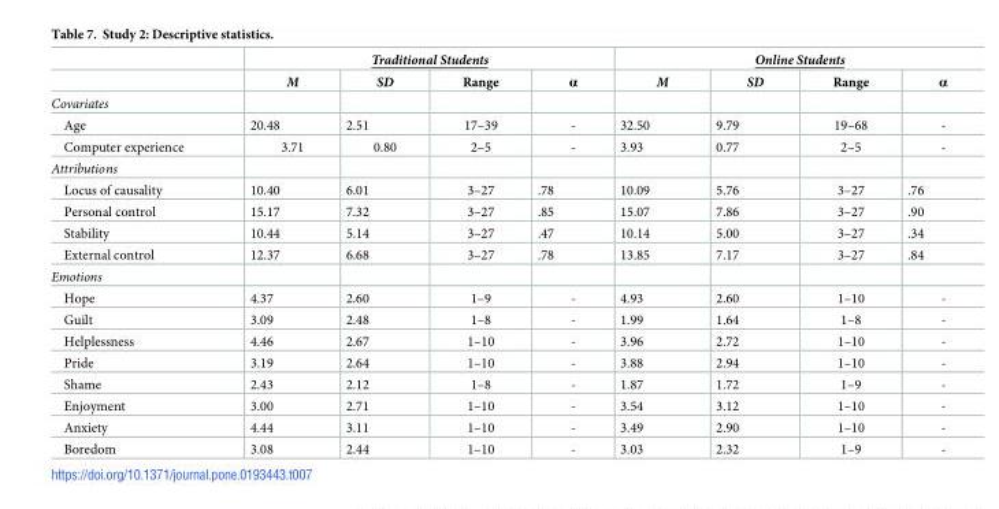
<table><thead><tr><td rowspan="2"></td><td colspan="4">Traditional Students</td><td colspan="4">Online Students</td></tr><tr><td>M</td><td>SD</td><td>Range</td><td>α</td><td>M</td><td>SD</td><td>Range</td><td>α</td></tr></thead><tbody><tr><td colspan="9">Covariates</td></tr><tr><td>Age</td><td>20.48</td><td>2.51</td><td>17–39</td><td>-</td><td>32.50</td><td>9.79</td><td>19–68</td><td>-</td></tr><tr><td>Computer experience</td><td>3.71</td><td>0.80</td><td>2–5</td><td>-</td><td>3.93</td><td>0.77</td><td>2–5</td><td>-</td></tr><tr><td colspan="9">Attributions</td></tr><tr><td>Locus of causality</td><td>10.40</td><td>6.01</td><td>3–27</td><td>.78</td><td>10.09</td><td>5.76</td><td>3–27</td><td>.76</td></tr><tr><td>Personal control</td><td>15.17</td><td>7.32</td><td>3–27</td><td>.85</td><td>15.07</td><td>7.86</td><td>3–27</td><td>.90</td></tr><tr><td>Stability</td><td>10.44</td><td>5.14</td><td>3–27</td><td>.47</td><td>10.14</td><td>5.00</td><td>3–27</td><td>.34</td></tr><tr><td>External control</td><td>12.37</td><td>6.68</td><td>3–27</td><td>.78</td><td>13.85</td><td>7.17</td><td>3–27</td><td>.84</td></tr><tr><td colspan="9">Emotions</td></tr><tr><td>Hope</td><td>4.37</td><td>2.60</td><td>1–9</td><td>-</td><td>4.93</td><td>2.60</td><td>1–10</td><td>-</td></tr><tr><td>Guilt</td><td>3.09</td><td>2.48</td><td>1–8</td><td>-</td><td>1.99</td><td>1.64</td><td>1–8</td><td>-</td></tr><tr><td>Helplessness</td><td>4.46</td><td>2.67</td><td>1–10</td><td>-</td><td>3.96</td><td>2.72</td><td>1–10</td><td>-</td></tr><tr><td>Pride</td><td>3.19</td><td>2.64</td><td>1–10</td><td>-</td><td>3.88</td><td>2.94</td><td>1–10</td><td>-</td></tr><tr><td>Shame</td><td>2.43</td><td>2.12</td><td>1–8</td><td>-</td><td>1.87</td><td>1.72</td><td>1–9</td><td>-</td></tr><tr><td>Enjoyment</td><td>3.00</td><td>2.71</td><td>1–10</td><td>-</td><td>3.54</td><td>3.12</td><td>1–10</td><td>-</td></tr><tr><td>Anxiety</td><td>4.44</td><td>3.11</td><td>1–10</td><td>-</td><td>3.49</td><td>2.90</td><td>1–10</td><td>-</td></tr><tr><td>Boredom</td><td>3.08</td><td>2.44</td><td>1–10</td><td>-</td><td>3.03</td><td>2.32</td><td>1–9</td><td>-</td></tr></tbody></table>